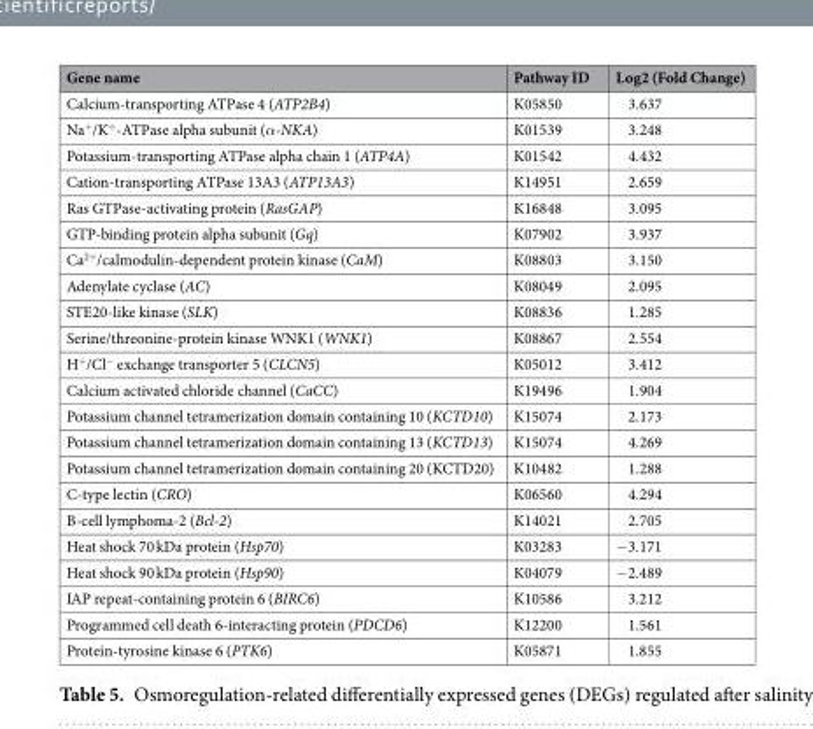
<table><thead><tr><td>Gene name</td><td>Pathway ID</td><td>Log2 (Fold Change)</td></tr></thead><tbody><tr><td>Calcium-transporting ATPase 4 (ATP2B4)</td><td>K05850</td><td>3.637</td></tr><tr><td>Na<sup>+</sup>/K<sup>+</sup>-ATPase alpha subunit (α-NKA)</td><td>K01539</td><td>3.248</td></tr><tr><td>Potassium-transporting ATPase alpha chain 1 (ATP4A)</td><td>K01542</td><td>4.432</td></tr><tr><td>Cation-transporting ATPase 13A3 (ATP13A3)</td><td>K14951</td><td>2.659</td></tr><tr><td>Ras GTPase-activating protein (RasGAP)</td><td>K16848</td><td>3.095</td></tr><tr><td>GTP-binding protein alpha subunit (Gq)</td><td>K07902</td><td>3.937</td></tr><tr><td>Ca<sup>2+</sup>/calmodulin-dependent protein kinase (CaM)</td><td>K08803</td><td>3.150</td></tr><tr><td>Adenylate cyclase (AC)</td><td>K08049</td><td>2.095</td></tr><tr><td>STE20-like kinase (SLK)</td><td>K08836</td><td>1.285</td></tr><tr><td>Serine/threonine-protein kinase WNK1 (WNK1)</td><td>K08867</td><td>2.554</td></tr><tr><td>H<sup>+</sup>/Cl<sup>−</sup> exchange transporter 5 (CLCN5)</td><td>K05012</td><td>3.412</td></tr><tr><td>Calcium activated chloride channel (CaCC)</td><td>K19496</td><td>1.904</td></tr><tr><td>Potassium channel tetramerization domain containing 10 (KCTD10)</td><td>K15074</td><td>2.173</td></tr><tr><td>Potassium channel tetramerization domain containing 13 (KCTD13)</td><td>K15074</td><td>4.269</td></tr><tr><td>Potassium channel tetramerization domain containing 20 (KCTD20)</td><td>K10482</td><td>1.288</td></tr><tr><td>C-type lectin (CRO)</td><td>K06560</td><td>4.294</td></tr><tr><td>B-cell lymphoma-2 (Bcl-2)</td><td>K14021</td><td>2.705</td></tr><tr><td>Heat shock 70 kDa protein (Hsp70)</td><td>K03283</td><td>−3.171</td></tr><tr><td>Heat shock 90 kDa protein (Hsp90)</td><td>K04079</td><td>−2.489</td></tr><tr><td>IAP repeat-containing protein 6 (BIRC6)</td><td>K10586</td><td>3.212</td></tr><tr><td>Programmed cell death 6-interacting protein (PDCD6)</td><td>K12200</td><td>1.561</td></tr><tr><td>Protein-tyrosine kinase 6 (PTK6)</td><td>K05871</td><td>1.855</td></tr></tbody></table>